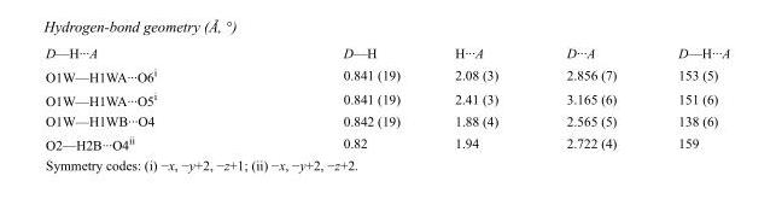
<table><tbody><tr><td>D—H···A</td><td>D—H</td><td>H···A</td><td>D···A</td><td>D—H···A</td></tr><tr><td>O1W—H1WA···O6<sup>i</sup></td><td>0.841 (19)</td><td>2.08 (3)</td><td>2.856 (7)</td><td>153 (5)</td></tr><tr><td>O1W—H1WA···O5<sup>i</sup></td><td>0.841 (19)</td><td>2.41 (3)</td><td>3.165 (6)</td><td>151 (6)</td></tr><tr><td>O1W—H1WB···O4</td><td>0.842 (19)</td><td>1.88 (4)</td><td>2.565 (5)</td><td>138 (6)</td></tr><tr><td>O2—H2B···O4<sup>ii</sup></td><td>0.82</td><td>1.94</td><td>2.722 (4)</td><td>159</td></tr></tbody></table>